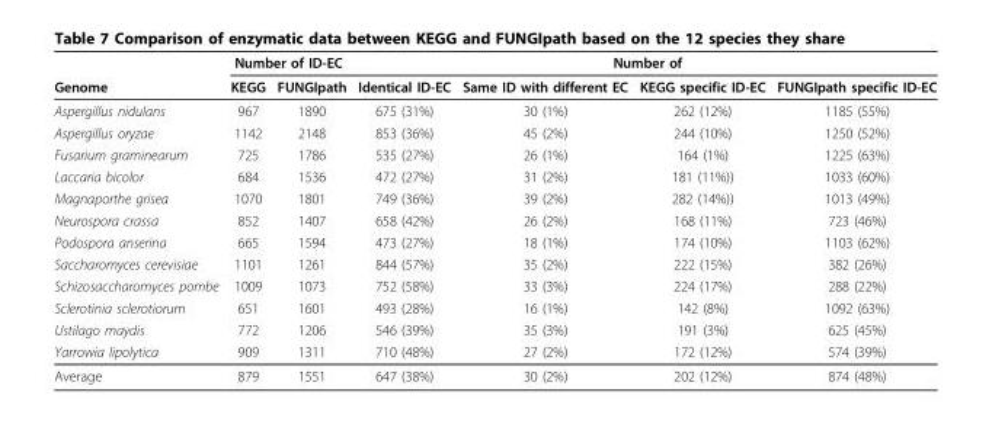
<table><thead><tr><td rowspan="2">Genome</td><td colspan="2">Number of ID-EC</td><td colspan="4">Number of</td></tr><tr><td>KEGG</td><td>FUNGIpath</td><td>Identical ID-EC</td><td>Same ID with different EC</td><td>KEGG specific ID-EC</td><td>FUNGIpath specific ID-EC</td></tr></thead><tbody><tr><td>Aspergillus nidulans</td><td>967</td><td>1890</td><td>675 (31%)</td><td>30 (1%)</td><td>262 (12%)</td><td>1185 (55%)</td></tr><tr><td>Aspergillus oryzae</td><td>1142</td><td>2148</td><td>853 (36%)</td><td>45 (2%)</td><td>244 (10%)</td><td>1250 (52%)</td></tr><tr><td>Fusarium graminearum</td><td>725</td><td>1786</td><td>535 (27%)</td><td>26 (1%)</td><td>164 (1%)</td><td>1225 (63%)</td></tr><tr><td>Laccaria bicolor</td><td>684</td><td>1536</td><td>472 (27%)</td><td>31 (2%)</td><td>181 (11%))</td><td>1033 (60%)</td></tr><tr><td>Magnaporthe grisea</td><td>1070</td><td>1801</td><td>749 (36%)</td><td>39 (2%)</td><td>282 (14%))</td><td>1013 (49%)</td></tr><tr><td>Neurospora crassa</td><td>852</td><td>1407</td><td>658 (42%)</td><td>26 (2%)</td><td>168 (11%)</td><td>723 (46%)</td></tr><tr><td>Podospora anserina</td><td>665</td><td>1594</td><td>473 (27%)</td><td>18 (1%)</td><td>174 (10%)</td><td>1103 (62%)</td></tr><tr><td>Saccharomyces cerevisiae</td><td>1101</td><td>1261</td><td>844 (57%)</td><td>35 (2%)</td><td>222 (15%)</td><td>382 (26%)</td></tr><tr><td>Schizosaccharomyces pombe</td><td>1009</td><td>1073</td><td>752 (58%)</td><td>33 (3%)</td><td>224 (17%)</td><td>288 (22%)</td></tr><tr><td>Sclerotinia sclerotiorum</td><td>651</td><td>1601</td><td>493 (28%)</td><td>16 (1%)</td><td>142 (8%)</td><td>1092 (63%)</td></tr><tr><td>Ustilago maydis</td><td>772</td><td>1206</td><td>546 (39%)</td><td>35 (3%)</td><td>191 (3%)</td><td>625 (45%)</td></tr><tr><td>Yarrowia lipolytica</td><td>909</td><td>1311</td><td>710 (48%)</td><td>27 (2%)</td><td>172 (12%)</td><td>574 (39%)</td></tr><tr><td>Average</td><td>879</td><td>1551</td><td>647 (38%)</td><td>30 (2%)</td><td>202 (12%)</td><td>874 (48%)</td></tr></tbody></table>